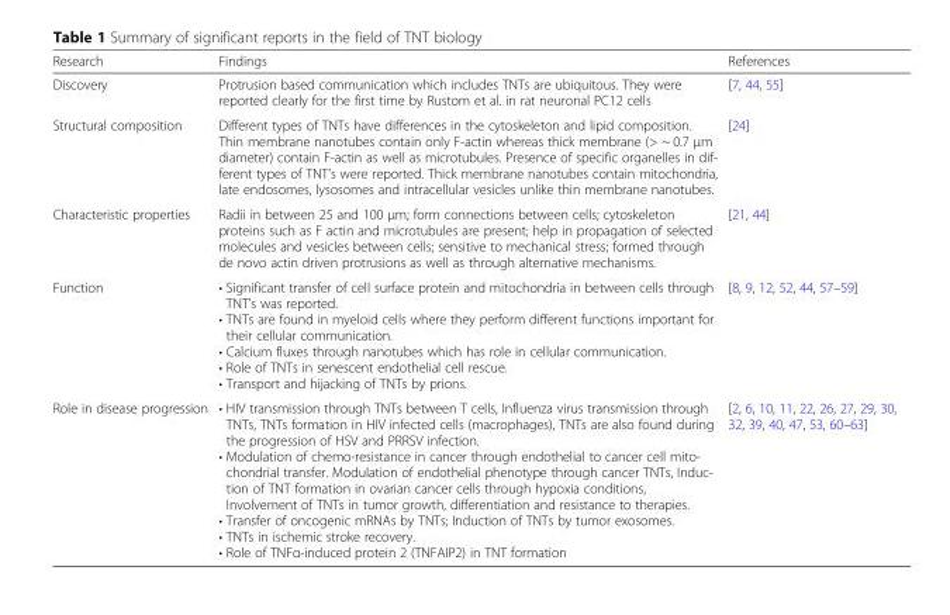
<table><thead><tr><td>Research</td><td>Findings</td><td>References</td></tr></thead><tbody><tr><td>Discovery</td><td>Protrusion based communication which includes TNTs are ubiquitous. They were reported clearly for the first time by Rustom et al. in rat neuronal PC12 cells</td><td>[7, 44, 55]</td></tr><tr><td>Structural composition</td><td>Different types of TNTs have differences in the cytoskeleton and lipid composition. Thin membrane nanotubes contain only F-actin whereas thick membrane (&gt; ~ 0.7 μm diameter) contain F-actin as well as microtubules. Presence of specific organelles in dif- ferent types of TNT’s were reported. Thick membrane nanotubes contain mitochondria, late endosomes, lysosomes and intracellular vesicles unlike thin membrane nanotubes.</td><td>[24]</td></tr><tr><td>Characteristic properties</td><td>Radii in between 25 and 100 μm; form connections between cells; cytoskeleton proteins such as F actin and microtubules are present; help in propagation of selected molecules and vesicles between cells; sensitive to mechanical stress; formed through de novo actin driven protrusions as well as through alternative mechanisms.</td><td>[21, 44]</td></tr><tr><td>Function</td><td>• Significant transfer of cell surface protein and mitochondria in between cells through TNT’s was reported. • TNTs are found in myeloid cells where they perform different functions important for their cellular communication. • Calcium fluxes through nanotubes which has role in cellular communication. • Role of TNTs in senescent endothelial cell rescue. • Transport and hijacking of TNTs by prions.</td><td>[8, 9, 12, 52, 44, 57–59]</td></tr><tr><td>Role in disease progression</td><td>• HIV transmission through TNTs between T cells, Influenza virus transmission through TNTs, TNTs formation in HIV infected cells (macrophages), TNTs are also found during the progression of HSV and PRRSV infection. • Modulation of chemo-resistance in cancer through endothelial to cancer cell mito- chondrial transfer. Modulation of endothelial phenotype through cancer TNTs, Induc- tion of TNT formation in ovarian cancer cells through hypoxia conditions, Involvement of TNTs in tumor growth, differentiation and resistance to therapies. • Transfer of oncogenic mRNAs by TNTs; Induction of TNTs by tumor exosomes. • TNTs in ischemic stroke recovery. • Role of TNFα-induced protein 2 (TNFAIP2) in TNT formation</td><td>[2, 6, 10, 11, 22, 26, 27, 29, 30, 32, 39, 40, 47, 53, 60–63]</td></tr></tbody></table>